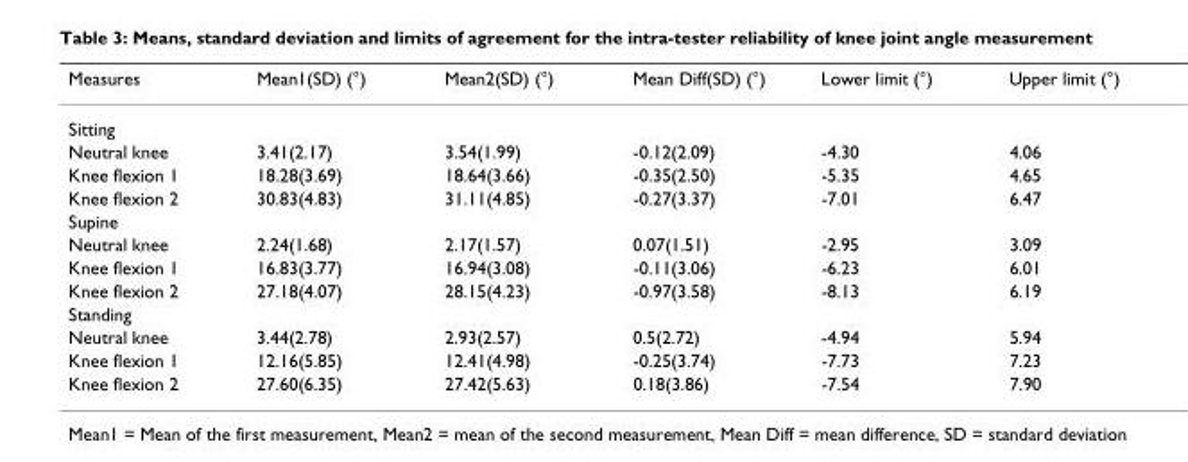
<table><thead><tr><td>Measures</td><td>Mean1(SD) (°)</td><td>Mean2(SD) (°)</td><td>Mean Diff(SD) (°)</td><td>Lower limit (°)</td><td>Upper limit (°)</td></tr></thead><tbody><tr><td colspan="6">Sitting</td></tr><tr><td>Neutral knee</td><td>3.41(2.17)</td><td>3.54(1.99)</td><td>-0.12(2.09)</td><td>-4.30</td><td>4.06</td></tr><tr><td>Knee flexion 1</td><td>18.28(3.69)</td><td>18.64(3.66)</td><td>-0.35(2.50)</td><td>-5.35</td><td>4.65</td></tr><tr><td>Knee flexion 2</td><td>30.83(4.83)</td><td>31.11(4.85)</td><td>-0.27(3.37)</td><td>-7.01</td><td>6.47</td></tr><tr><td colspan="6">Supine</td></tr><tr><td>Neutral knee</td><td>2.24(1.68)</td><td>2.17(1.57)</td><td>0.07(1.51)</td><td>-2.95</td><td>3.09</td></tr><tr><td>Knee flexion 1</td><td>16.83(3.77)</td><td>16.94(3.08)</td><td>-0.11(3.06)</td><td>-6.23</td><td>6.01</td></tr><tr><td>Knee flexion 2</td><td>27.18(4.07)</td><td>28.15(4.23)</td><td>-0.97(3.58)</td><td>-8.13</td><td>6.19</td></tr><tr><td colspan="6">Standing</td></tr><tr><td>Neutral knee</td><td>3.44(2.78)</td><td>2.93(2.57)</td><td>0.5(2.72)</td><td>-4.94</td><td>5.94</td></tr><tr><td>Knee flexion 1</td><td>12.16(5.85)</td><td>12.41(4.98)</td><td>-0.25(3.74)</td><td>-7.73</td><td>7.23</td></tr><tr><td>Knee flexion 2</td><td>27.60(6.35)</td><td>27.42(5.63)</td><td>0.18(3.86)</td><td>-7.54</td><td>7.90</td></tr></tbody></table>